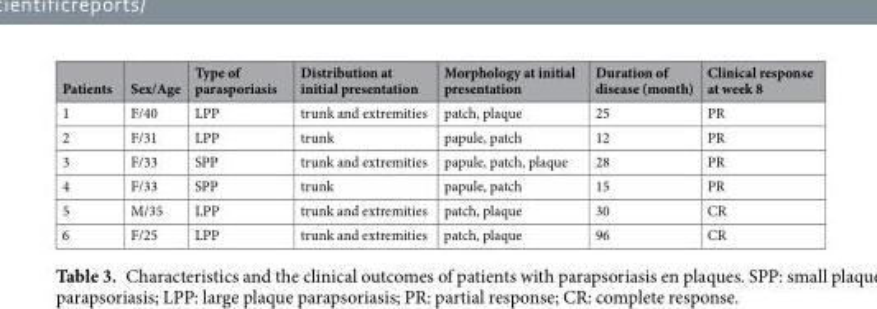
<table><thead><tr><td>Patients</td><td>Sex/Age</td><td>Type of parasporiasis</td><td>Distribution at initial presentation</td><td>Morphology at initial presentation</td><td>Duration of disease (month)</td><td>Clinical response at week 8</td></tr></thead><tbody><tr><td>1</td><td>F/40</td><td>LPP</td><td>trunk and extremities</td><td>patch, plaque</td><td>25</td><td>PR</td></tr><tr><td>2</td><td>F/31</td><td>LPP</td><td>trunk</td><td>papule, patch</td><td>12</td><td>PR</td></tr><tr><td>3</td><td>F/33</td><td>SPP</td><td>trunk and extremities</td><td>papule, patch, plaque</td><td>28</td><td>PR</td></tr><tr><td>4</td><td>F/33</td><td>SPP</td><td>trunk</td><td>papule, patch</td><td>15</td><td>PR</td></tr><tr><td>5</td><td>M/35</td><td>LPP</td><td>trunk and extremities</td><td>patch, plaque</td><td>30</td><td>CR</td></tr><tr><td>6</td><td>F/25</td><td>LPP</td><td>trunk and extremities</td><td>patch, plaque</td><td>96</td><td>CR</td></tr></tbody></table>